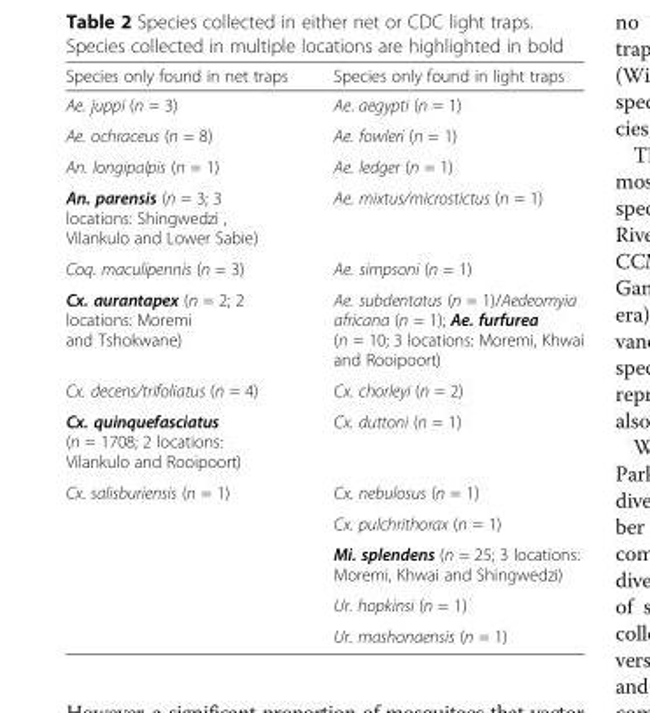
<table><thead><tr><td>Species only found in net traps</td><td>Species only found in light traps</td></tr></thead><tbody><tr><td>Ae. juppi (n = 3)</td><td>Ae. aegypti (n = 1)</td></tr><tr><td>Ae. ochraceus (n = 8)</td><td>Ae. fowleri (n = 1)</td></tr><tr><td>An. longipalpis (n = 1)</td><td>Ae. ledger (n = 1)</td></tr><tr><td>An. parensis (n = 3; 3 locations: Shingwedzi , Vilankulo and Lower Sabie)</td><td>Ae. mixtus/microstictus (n = 1)</td></tr><tr><td>Coq. maculipennis (n = 3)</td><td>Ae. simpsoni (n = 1)</td></tr><tr><td>Cx. aurantapex (n = 2; 2 locations: Moremi and Tshokwane)</td><td>Ae. subdentatus (n = 1)/Aedeomyia africana (n = 1); Ae. furfurea (n = 10; 3 locations: Moremi, Khwai and Rooipoort)</td></tr><tr><td>Cx. decens/trifoliatus (n = 4)</td><td>Cx. chorleyi (n = 2)</td></tr><tr><td>Cx. quinquefasciatus (n = 1708; 2 locations: Vilankulo and Rooipoort)</td><td>Cx. duttoni (n = 1)</td></tr><tr><td rowspan="5">Cx. salisburiensis (n = 1)</td><td>Cx. nebulosus (n = 1)</td></tr><tr><td>Cx. pulchrithorax (n = 1)</td></tr><tr><td>Mi. splendens (n = 25; 3 locations: Moremi, Khwai and Shingwedzi)</td></tr><tr><td>Ur. hopkinsi (n = 1)</td></tr><tr><td>Ur. mashonaensis (n = 1)</td></tr></tbody></table>